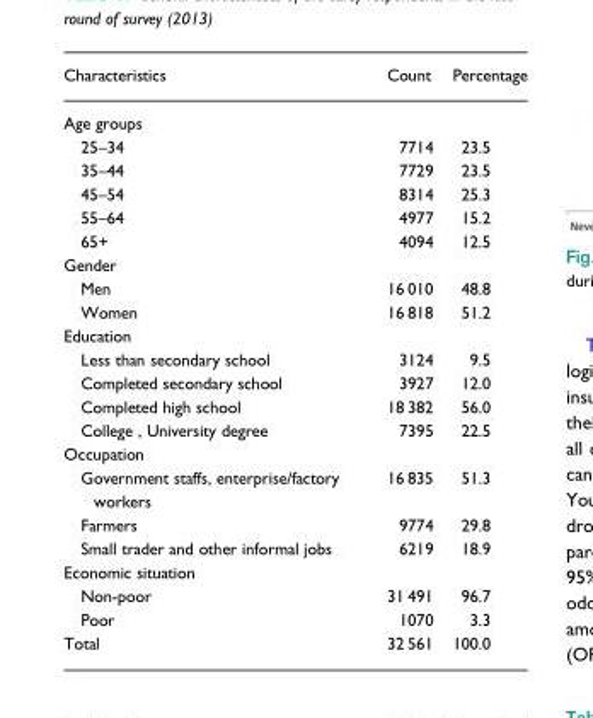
<table><thead><tr><td>Characteristics</td><td>Count</td><td>Percentage</td></tr></thead><tbody><tr><td colspan="3">Age groups</td></tr><tr><td>25–34</td><td>7714</td><td>23.5</td></tr><tr><td>35–44</td><td>7729</td><td>23.5</td></tr><tr><td>45–54</td><td>8314</td><td>25.3</td></tr><tr><td>55–64</td><td>4977</td><td>15.2</td></tr><tr><td>65+</td><td>4094</td><td>12.5</td></tr><tr><td colspan="3">Gender</td></tr><tr><td>Men</td><td>16 010</td><td>48.8</td></tr><tr><td>Women</td><td>16 818</td><td>51.2</td></tr><tr><td colspan="3">Education</td></tr><tr><td>Less than secondary school</td><td>3124</td><td>9.5</td></tr><tr><td>Completed secondary school</td><td>3927</td><td>12.0</td></tr><tr><td>Completed high school</td><td>18 382</td><td>56.0</td></tr><tr><td>College , University degree</td><td>7395</td><td>22.5</td></tr><tr><td colspan="3">Occupation</td></tr><tr><td>Government staffs, enterprise/factory workers</td><td>16 835</td><td>51.3</td></tr><tr><td>Farmers</td><td>9774</td><td>29.8</td></tr><tr><td>Small trader and other informal jobs</td><td>6219</td><td>18.9</td></tr><tr><td colspan="3">Economic situation</td></tr><tr><td>Non-poor</td><td>31 491</td><td>96.7</td></tr><tr><td>Poor</td><td>1070</td><td>3.3</td></tr><tr><td>Total</td><td>32 561</td><td>100.0</td></tr></tbody></table>